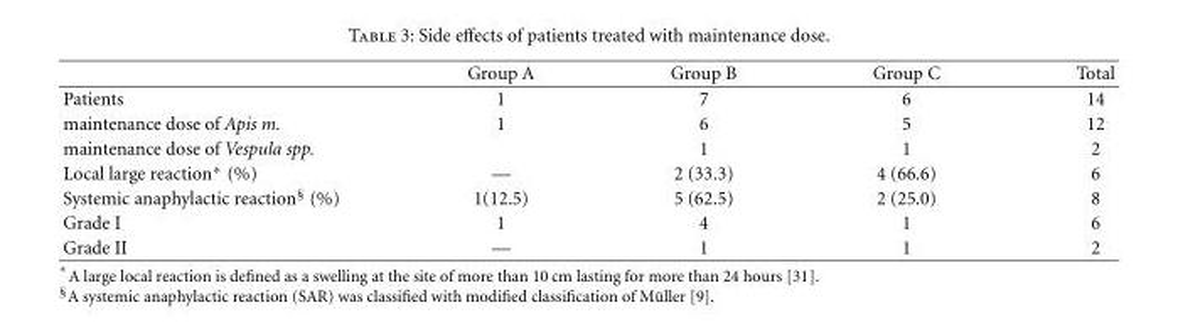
<table><thead><tr><td></td><td>Group A</td><td>Group B</td><td>Group C</td><td>Total</td></tr></thead><tbody><tr><td>Patients</td><td>1</td><td>7</td><td>6</td><td>14</td></tr><tr><td>maintenance dose of Apis m.</td><td>1</td><td>6</td><td>5</td><td>12</td></tr><tr><td>maintenance dose of Vespula spp.</td><td></td><td>1</td><td>1</td><td>2</td></tr><tr><td>Local large reaction∗ (%)</td><td>—</td><td>2 (33.3)</td><td>4 (66.6)</td><td>6</td></tr><tr><td>Systemic anaphylactic reaction<sup>§</sup> (%)</td><td>1(12.5)</td><td>5 (62.5)</td><td>2 (25.0)</td><td>8</td></tr><tr><td>Grade I</td><td>1</td><td>4</td><td>1</td><td>6</td></tr><tr><td>Grade II</td><td>—</td><td>1</td><td>1</td><td>2</td></tr></tbody></table>